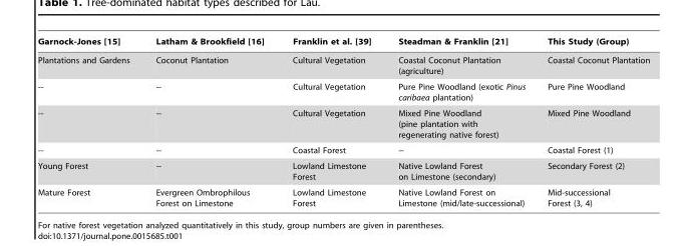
<table><thead><tr><td>Garnock-Jones [15]</td><td>Latham &amp; Brookfield [16]</td><td>Franklin et al. [39]</td><td>Steadman &amp; Franklin [21]</td><td>This Study (Group)</td></tr></thead><tbody><tr><td>Plantations and Gardens</td><td>Coconut Plantation</td><td>Cultural Vegetation</td><td>Coastal Coconut Plantation (agriculture)</td><td>Coastal Coconut Plantation</td></tr><tr><td>--</td><td>--</td><td>Cultural Vegetation</td><td>Pure Pine Woodland (exotic Pinus caribaea plantation)</td><td>Pure Pine Woodland</td></tr><tr><td>--</td><td>--</td><td>Cultural Vegetation</td><td>Mixed Pine Woodland (pine plantation with regenerating native forest)</td><td>Mixed Pine Woodland</td></tr><tr><td>--</td><td>--</td><td>Coastal Forest</td><td>--</td><td>Coastal Forest (1)</td></tr><tr><td>Young Forest</td><td>--</td><td>Lowland Limestone Forest</td><td>Native Lowland Forest on Limestone (secondary)</td><td>Secondary Forest (2)</td></tr><tr><td>Mature Forest</td><td>Evergreen Ombrophilous Forest on Limestone</td><td>Lowland Limestone Forest</td><td>Native Lowland Forest on Limestone (mid/late-successional)</td><td>Mid-successional Forest (3, 4)</td></tr></tbody></table>